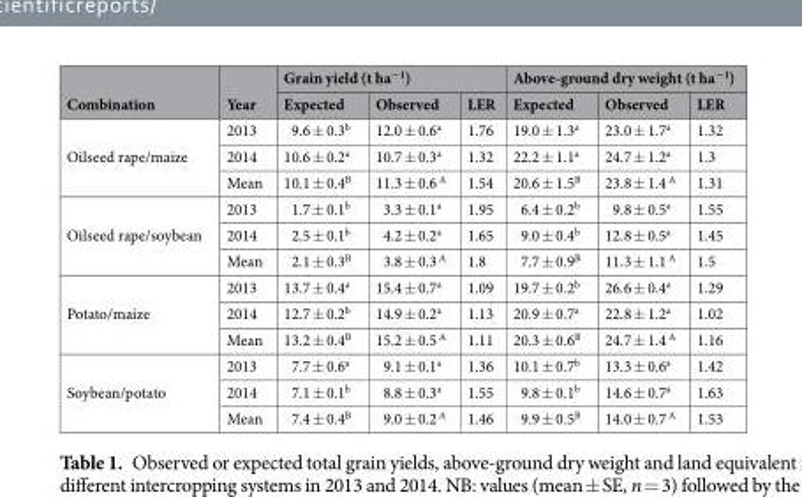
<table><thead><tr><td rowspan="2">Combination</td><td rowspan="2">Year</td><td colspan="3">Grain yield (t ha<sup>−1</sup>)</td><td colspan="3">Above-ground dry weight (t ha<sup>−1</sup>)</td></tr><tr><td>Expected</td><td>Observed</td><td>LER</td><td>Expected</td><td>Observed</td><td>LER</td></tr></thead><tbody><tr><td rowspan="3">Oilseed rape/maize</td><td>2013</td><td>9.6 ± 0.3<sup>b</sup></td><td>12.0 ± 0.6<sup>a</sup></td><td>1.76</td><td>19.0 ± 1.3<sup>a</sup></td><td>23.0 ± 1.7<sup>a</sup></td><td>1.32</td></tr><tr><td>2014</td><td>10.6 ± 0.2<sup>a</sup></td><td>10.7 ± 0.3<sup>a</sup></td><td>1.32</td><td>22.2 ± 1.1<sup>a</sup></td><td>24.7 ± 1.2<sup>a</sup></td><td>1.3</td></tr><tr><td>Mean</td><td>10.1 ± 0.4<sup>B</sup></td><td>11.3 ± 0.6 <sup>A</sup></td><td>1.54</td><td>20.6 ± 1.5<sup>B</sup></td><td>23.8 ± 1.4 <sup>A</sup></td><td>1.31</td></tr><tr><td rowspan="3">Oilseed rape/soybean</td><td>2013</td><td>1.7 ± 0.1<sup>b</sup></td><td>3.3 ± 0.1<sup>a</sup></td><td>1.95</td><td>6.4 ± 0.2<sup>b</sup></td><td>9.8 ± 0.5<sup>a</sup></td><td>1.55</td></tr><tr><td>2014</td><td>2.5 ± 0.1<sup>b</sup></td><td>4.2 ± 0.2<sup>a</sup></td><td>1.65</td><td>9.0 ± 0.4<sup>b</sup></td><td>12.8 ± 0.5<sup>a</sup></td><td>1.45</td></tr><tr><td>Mean</td><td>2.1 ± 0.3<sup>B</sup></td><td>3.8 ± 0.3 <sup>A</sup></td><td>1.8</td><td>7.7 ± 0.9<sup>B</sup></td><td>11.3 ± 1.1 <sup>A</sup></td><td>1.5</td></tr><tr><td rowspan="3">Potato/maize</td><td>2013</td><td>13.7 ± 0.4<sup>a</sup></td><td>15.4 ± 0.7<sup>a</sup></td><td>1.09</td><td>19.7 ± 0.2<sup>b</sup></td><td>26.6 ± 0.4<sup>a</sup></td><td>1.29</td></tr><tr><td>2014</td><td>12.7 ± 0.2<sup>b</sup></td><td>14.9 ± 0.2<sup>a</sup></td><td>1.13</td><td>20.9 ± 0.7<sup>a</sup></td><td>22.8 ± 1.2<sup>a</sup></td><td>1.02</td></tr><tr><td>Mean</td><td>13.2 ± 0.4<sup>B</sup></td><td>15.2 ± 0.5 <sup>A</sup></td><td>1.11</td><td>20.3 ± 0.6<sup>B</sup></td><td>24.7 ± 1.4 <sup>A</sup></td><td>1.16</td></tr><tr><td rowspan="3">Soybean/potato</td><td>2013</td><td>7.7 ± 0.6<sup>a</sup></td><td>9.1 ± 0.1<sup>a</sup></td><td>1.36</td><td>10.1 ± 0.7<sup>b</sup></td><td>13.3 ± 0.6<sup>a</sup></td><td>1.42</td></tr><tr><td>2014</td><td>7.1 ± 0.1<sup>b</sup></td><td>8.8 ± 0.3<sup>a</sup></td><td>1.55</td><td>9.8 ± 0.1<sup>b</sup></td><td>14.6 ± 0.7<sup>a</sup></td><td>1.63</td></tr><tr><td>Mean</td><td>7.4 ± 0.4<sup>B</sup></td><td>9.0 ± 0.2 <sup>A</sup></td><td>1.46</td><td>9.9 ± 0.5<sup>B</sup></td><td>14.0 ± 0.7 <sup>A</sup></td><td>1.53</td></tr></tbody></table>